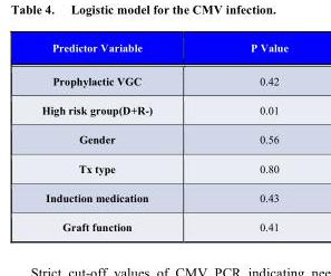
<table><thead><tr><td>Predictor Variable</td><td>P Value</td></tr></thead><tbody><tr><td>Prophylactic VGC</td><td>0.42</td></tr><tr><td>High risk group(D+R-)</td><td>0.01</td></tr><tr><td>Gender</td><td>0.56</td></tr><tr><td>Tx type</td><td>0.80</td></tr><tr><td>Induction medication</td><td>0.43</td></tr><tr><td>Graft function</td><td>0.41</td></tr></tbody></table>